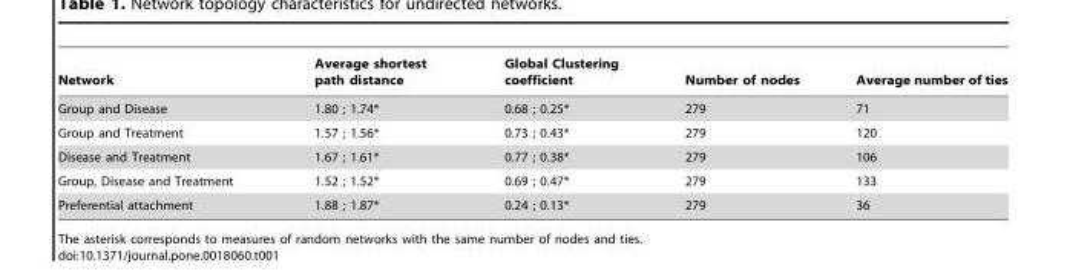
<table><thead><tr><td>Network</td><td>Average shortest path distance</td><td>Global Clustering coefficient</td><td>Number of nodes</td><td>Average number of ties</td></tr></thead><tbody><tr><td>Group and Disease</td><td>1.80 ; 1.74*</td><td>0.68 ; 0.25*</td><td>279</td><td>71</td></tr><tr><td>Group and Treatment</td><td>1.57 ; 1.56*</td><td>0.73 ; 0.43*</td><td>279</td><td>120</td></tr><tr><td>Disease and Treatment</td><td>1.67 ; 1.61*</td><td>0.77 ; 0.38*</td><td>279</td><td>106</td></tr><tr><td>Group, Disease and Treatment</td><td>1.52 ; 1.52*</td><td>0.69 ; 0.47*</td><td>279</td><td>133</td></tr><tr><td>Preferential attachment</td><td>1.88 ; 1.87*</td><td>0.24 ; 0.13*</td><td>279</td><td>36</td></tr></tbody></table>